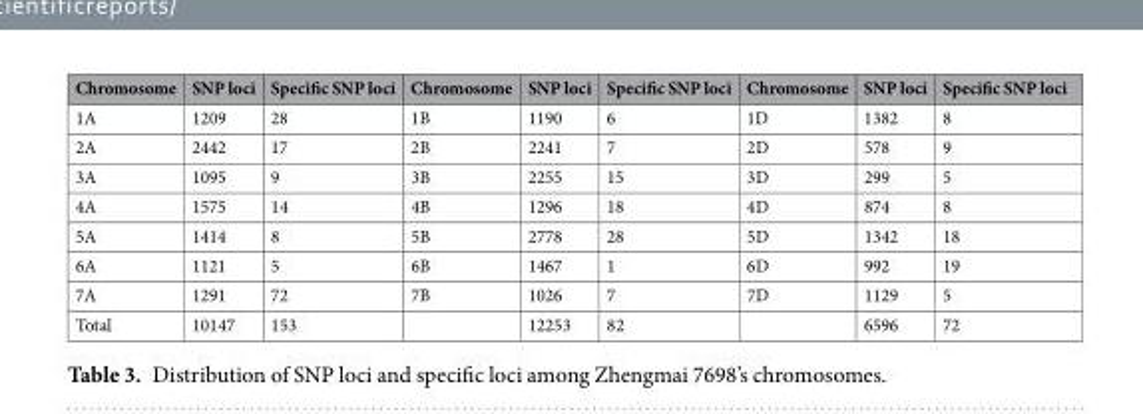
<table><thead><tr><td>Chromosome</td><td>SNP loci</td><td>Specific SNP loci</td><td>Chromosome</td><td>SNP loci</td><td>Specific SNP loci</td><td>Chromosome</td><td>SNP loci</td><td>Specific SNP loci</td></tr></thead><tbody><tr><td>1A</td><td>1209</td><td>28</td><td>1B</td><td>1190</td><td>6</td><td>1D</td><td>1382</td><td>8</td></tr><tr><td>2A</td><td>2442</td><td>17</td><td>2B</td><td>2241</td><td>7</td><td>2D</td><td>578</td><td>9</td></tr><tr><td>3A</td><td>1095</td><td>9</td><td>3B</td><td>2255</td><td>15</td><td>3D</td><td>299</td><td>5</td></tr><tr><td>4A</td><td>1575</td><td>14</td><td>4B</td><td>1296</td><td>18</td><td>4D</td><td>874</td><td>8</td></tr><tr><td>5A</td><td>1414</td><td>8</td><td>5B</td><td>2778</td><td>28</td><td>5D</td><td>1342</td><td>18</td></tr><tr><td>6A</td><td>1121</td><td>5</td><td>6B</td><td>1467</td><td>1</td><td>6D</td><td>992</td><td>19</td></tr><tr><td>7A</td><td>1291</td><td>72</td><td>7B</td><td>1026</td><td>7</td><td>7D</td><td>1129</td><td>5</td></tr><tr><td>Total</td><td>10147</td><td>153</td><td></td><td>12253</td><td>82</td><td></td><td>6596</td><td>72</td></tr></tbody></table>